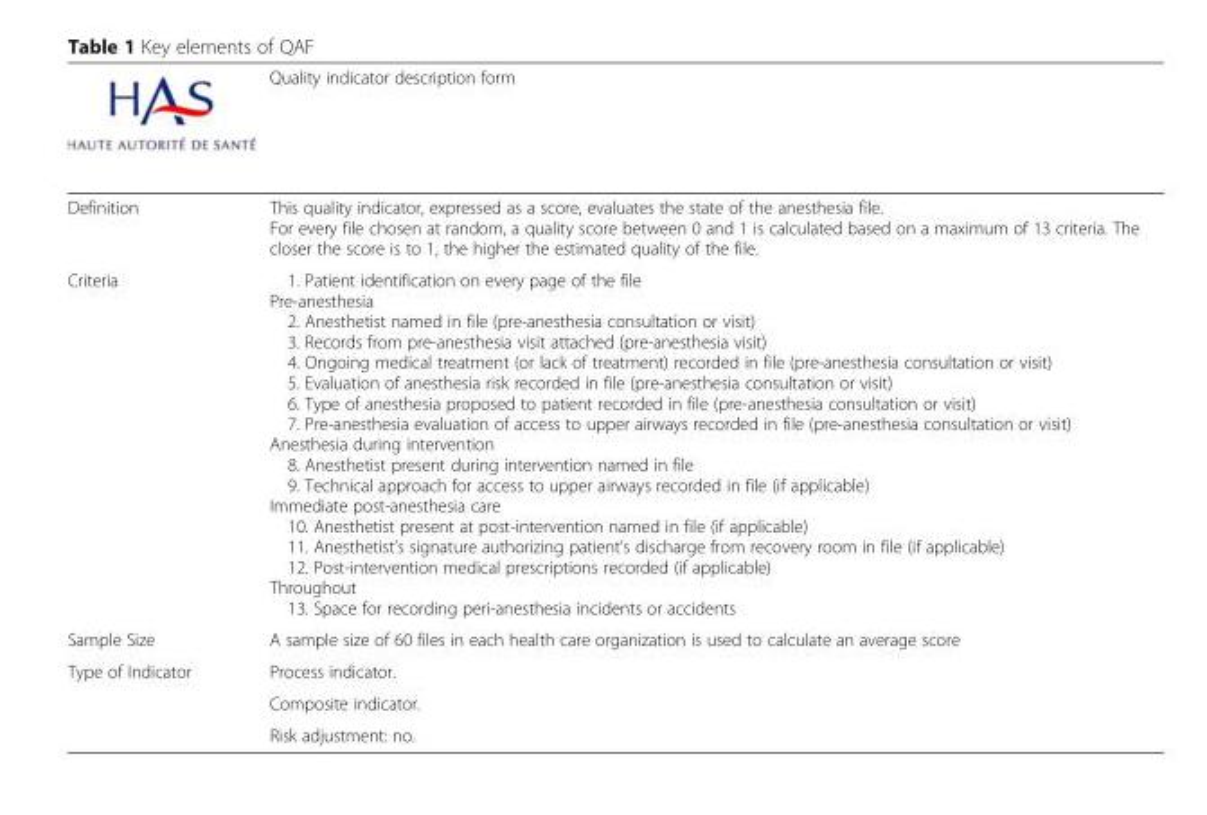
<table><thead><tr><td></td><td>Quality indicator description form</td></tr></thead><tbody><tr><td>Definition</td><td>This quality indicator, expressed as a score, evaluates the state of the anesthesia file. For every file chosen at random, a quality score between 0 and 1 is calculated based on a maximum of 13 criteria. The closer the score is to 1, the higher the estimated quality of the file.</td></tr><tr><td>Criteria</td><td>1. Patient identification on every page of the file Pre-anesthesia 2. Anesthetist named in file (pre-anesthesia consultation or visit) 3. Records from pre-anesthesia visit attached (pre-anesthesia visit) 4. Ongoing medical treatment (or lack of treatment) recorded in file (pre-anesthesia consultation or visit) 5. Evaluation of anesthesia risk recorded in file (pre-anesthesia consultation or visit) 6. Type of anesthesia proposed to patient recorded in file (pre-anesthesia consultation or visit) 7. Pre-anesthesia evaluation of access to upper airways recorded in file (pre-anesthesia consultation or visit) Anesthesia during intervention 8. Anesthetist present during intervention named in file 9. Technical approach for access to upper airways recorded in file (if applicable) Immediate post-anesthesia care 10. Anesthetist present at post-intervention named in file (if applicable) 11. Anesthetist’s signature authorizing patient’s discharge from recovery room in file (if applicable) 12. Post-intervention medical prescriptions recorded (if applicable) Throughout 13. Space for recording peri-anesthesia incidents or accidents</td></tr><tr><td>Sample Size</td><td>A sample size of 60 files in each health care organization is used to calculate an average score</td></tr><tr><td rowspan="3">Type of Indicator</td><td>Process indicator.</td></tr><tr><td>Composite indicator.</td></tr><tr><td>Risk adjustment: no.</td></tr></tbody></table>